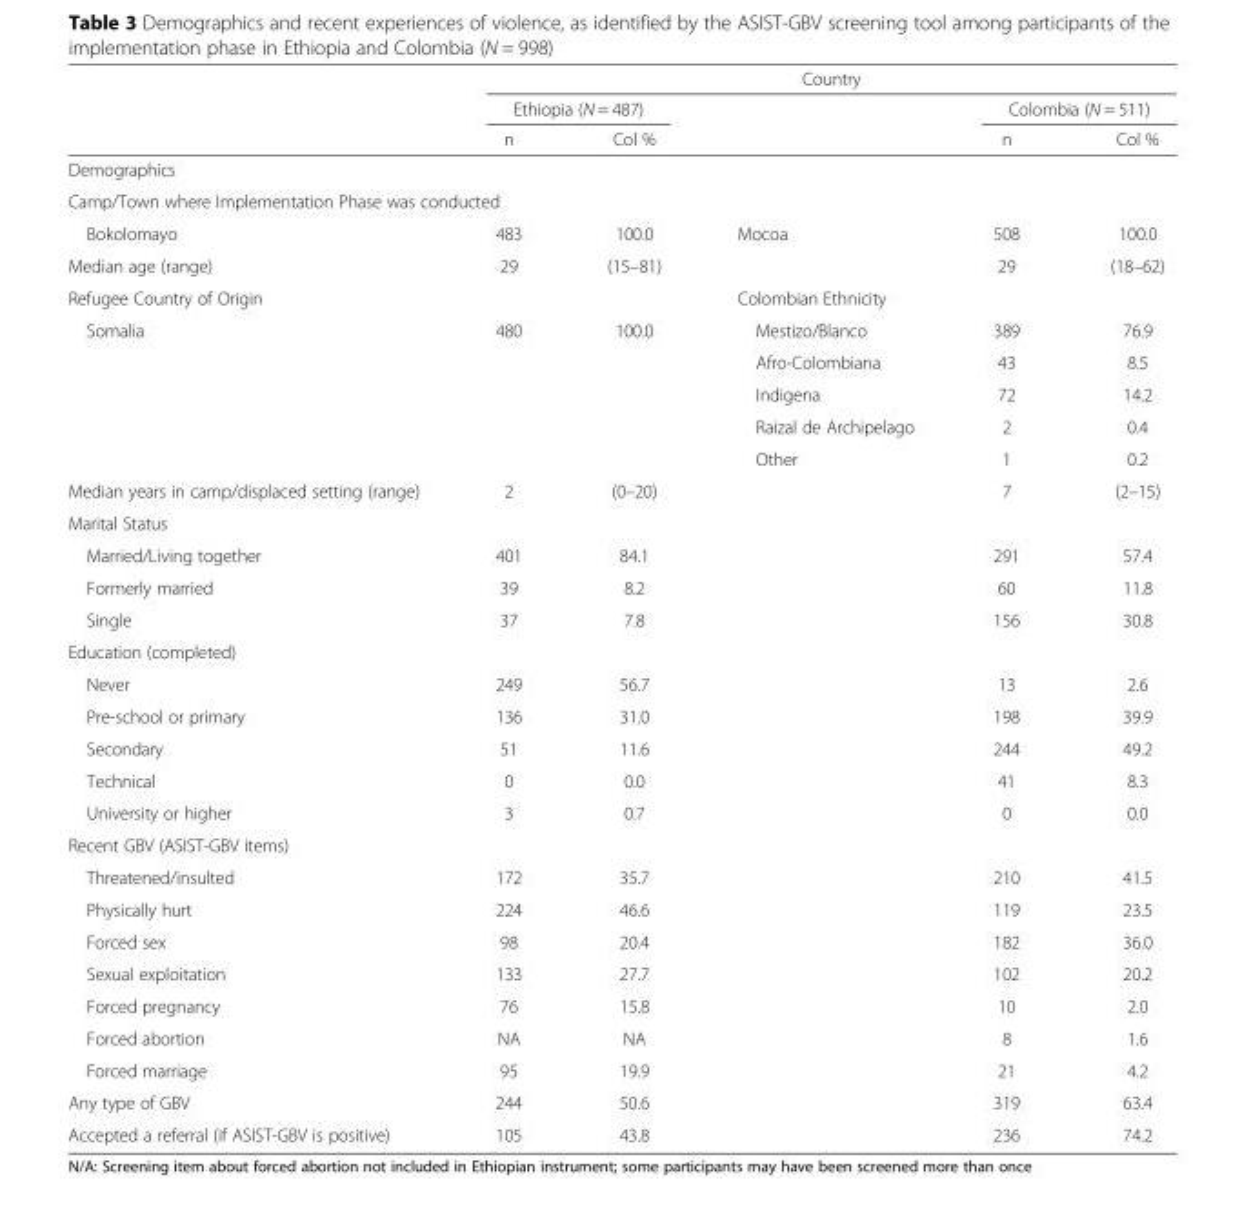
<table><thead><tr><td rowspan="3"></td><td colspan="5">Country</td></tr><tr><td colspan="2">Ethiopia (N = 487)</td><td rowspan="2"></td><td colspan="2">Colombia (N = 511)</td></tr><tr><td>n</td><td>Col %</td><td>n</td><td>Col %</td></tr></thead><tbody><tr><td colspan="6">Demographics</td></tr><tr><td colspan="6">Camp/Town where Implementation Phase was conducted</td></tr><tr><td>Bokolomayo</td><td>483</td><td>100.0</td><td>Mocoa</td><td>508</td><td>100.0</td></tr><tr><td>Median age (range)</td><td>29</td><td>(15–81)</td><td></td><td>29</td><td>(18–62)</td></tr><tr><td colspan="2">Refugee Country of Origin</td><td></td><td colspan="2">Colombian Ethnicity</td><td></td></tr><tr><td rowspan="5">Somalia</td><td>480</td><td>100.0</td><td>Mestizo/Blanco</td><td>389</td><td>76.9</td></tr><tr><td></td><td></td><td>Afro-Colombiana</td><td>43</td><td>8.5</td></tr><tr><td></td><td></td><td>Indigena</td><td>72</td><td>14.2</td></tr><tr><td></td><td></td><td>Raizal de Archipelago</td><td>2</td><td>0.4</td></tr><tr><td></td><td></td><td>Other</td><td>1</td><td>0.2</td></tr><tr><td>Median years in camp/displaced setting (range)</td><td>2</td><td>(0–20)</td><td></td><td>7</td><td>(2–15)</td></tr><tr><td colspan="6">Marital Status</td></tr><tr><td>Married/Living together</td><td>401</td><td>84.1</td><td></td><td>291</td><td>57.4</td></tr><tr><td>Formerly married</td><td>39</td><td>8.2</td><td></td><td>60</td><td>11.8</td></tr><tr><td>Single</td><td>37</td><td>7.8</td><td></td><td>156</td><td>30.8</td></tr><tr><td colspan="6">Education (completed)</td></tr><tr><td>Never</td><td>249</td><td>56.7</td><td></td><td>13</td><td>2.6</td></tr><tr><td>Pre-school or primary</td><td>136</td><td>31.0</td><td></td><td>198</td><td>39.9</td></tr><tr><td>Secondary</td><td>51</td><td>11.6</td><td></td><td>244</td><td>49.2</td></tr><tr><td>Technical</td><td>0</td><td>0.0</td><td></td><td>41</td><td>8.3</td></tr><tr><td>University or higher</td><td>3</td><td>0.7</td><td></td><td>0</td><td>0.0</td></tr><tr><td colspan="6">Recent GBV (ASIST-GBV items)</td></tr><tr><td>Threatened/insulted</td><td>172</td><td>35.7</td><td></td><td>210</td><td>41.5</td></tr><tr><td>Physically hurt</td><td>224</td><td>46.6</td><td></td><td>119</td><td>23.5</td></tr><tr><td>Forced sex</td><td>98</td><td>20.4</td><td></td><td>182</td><td>36.0</td></tr><tr><td>Sexual exploitation</td><td>133</td><td>27.7</td><td></td><td>102</td><td>20.2</td></tr><tr><td>Forced pregnancy</td><td>76</td><td>15.8</td><td></td><td>10</td><td>2.0</td></tr><tr><td>Forced abortion</td><td>NA</td><td>NA</td><td></td><td>8</td><td>1.6</td></tr><tr><td>Forced marriage</td><td>95</td><td>19.9</td><td></td><td>21</td><td>4.2</td></tr><tr><td>Any type of GBV</td><td>244</td><td>50.6</td><td></td><td>319</td><td>63.4</td></tr><tr><td>Accepted a referral (if ASIST-GBV is positive)</td><td>105</td><td>43.8</td><td></td><td>236</td><td>74.2</td></tr></tbody></table>